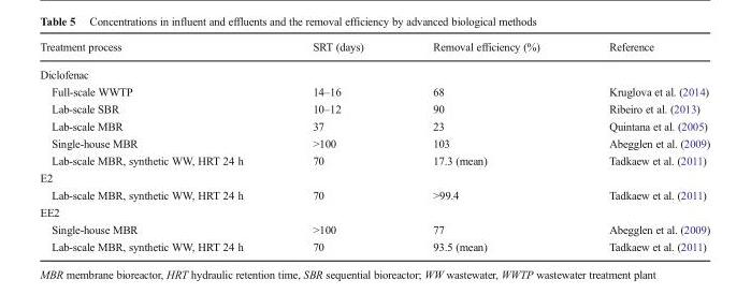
<table><thead><tr><td>Treatment process</td><td>SRT (days)</td><td>Removal efficiency (%)</td><td>Reference</td></tr></thead><tbody><tr><td colspan="4">Diclofenac</td></tr><tr><td>Full-scale WWTP</td><td>14–16</td><td>68</td><td>Kruglova et al. (2014)</td></tr><tr><td>Lab-scale SBR</td><td>10–12</td><td>90</td><td>Ribeiro et al. (2013)</td></tr><tr><td>Lab-scale MBR</td><td>37</td><td>23</td><td>Quintana et al. (2005)</td></tr><tr><td>Single-house MBR</td><td>&gt;100</td><td>103</td><td>Abegglen et al. (2009)</td></tr><tr><td>Lab-scale MBR, synthetic WW, HRT 24 h</td><td>70</td><td>17.3 (mean)</td><td>Tadkaew et al. (2011)</td></tr><tr><td colspan="4">E2</td></tr><tr><td>Lab-scale MBR, synthetic WW, HRT 24 h</td><td>70</td><td>&gt;99.4</td><td>Tadkaew et al. (2011)</td></tr><tr><td colspan="4">EE2</td></tr><tr><td>Single-house MBR</td><td>&gt;100</td><td>77</td><td>Abegglen et al. (2009)</td></tr><tr><td>Lab-scale MBR, synthetic WW, HRT 24 h</td><td>70</td><td>93.5 (mean)</td><td>Tadkaew et al. (2011)</td></tr></tbody></table>